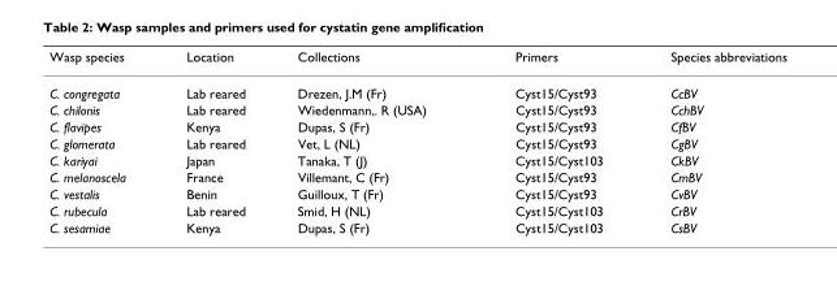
<table><thead><tr><td>Wasp species</td><td>Location</td><td>Collections</td><td>Primers</td><td>Species abbreviations</td></tr></thead><tbody><tr><td>C. congregata</td><td>Lab reared</td><td>Drezen, J.M (Fr)</td><td>Cyst15/Cyst93</td><td>CcBV</td></tr><tr><td>C. chilonis</td><td>Lab reared</td><td>Wiedenmann,. R (USA)</td><td>Cyst15/Cyst93</td><td>CchBV</td></tr><tr><td>C. flavipes</td><td>Kenya</td><td>Dupas, S (Fr)</td><td>Cyst15/Cyst93</td><td>CfBV</td></tr><tr><td>C. glomerata</td><td>Lab reared</td><td>Vet, L (NL)</td><td>Cyst15/Cyst93</td><td>CgBV</td></tr><tr><td>C. kariyai</td><td>Japan</td><td>Tanaka, T (J)</td><td>Cyst15/Cyst103</td><td>CkBV</td></tr><tr><td>C. melanoscela</td><td>France</td><td>Villemant, C (Fr)</td><td>Cyst15/Cyst93</td><td>CmBV</td></tr><tr><td>C. vestalis</td><td>Benin</td><td>Guilloux, T (Fr)</td><td>Cyst15/Cyst93</td><td>CvBV</td></tr><tr><td>C. rubecula</td><td>Lab reared</td><td>Smid, H (NL)</td><td>Cyst15/Cyst103</td><td>CrBV</td></tr><tr><td>C. sesamiae</td><td>Kenya</td><td>Dupas, S (Fr)</td><td>Cyst15/Cyst103</td><td>CsBV</td></tr></tbody></table>